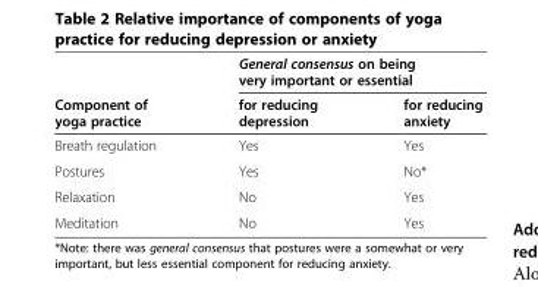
<table><thead><tr><td rowspan="2">Component of yoga practice</td><td colspan="2">General consensus on being very important or essential</td></tr><tr><td>for reducing depression</td><td>for reducing anxiety</td></tr></thead><tbody><tr><td>Breath regulation</td><td>Yes</td><td>Yes</td></tr><tr><td>Postures</td><td>Yes</td><td>No*</td></tr><tr><td>Relaxation</td><td>No</td><td>Yes</td></tr><tr><td>Meditation</td><td>No</td><td>Yes</td></tr></tbody></table>